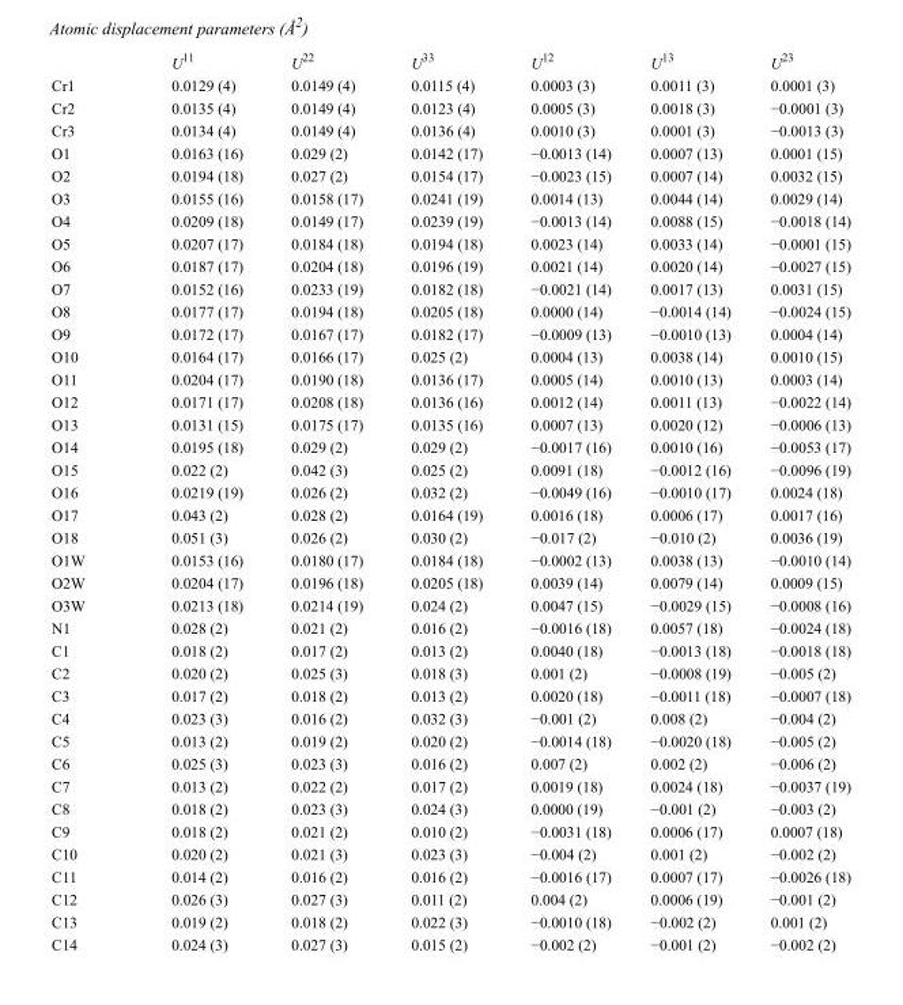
<table><thead><tr><td></td><td>U<sup>11</sup></td><td>U<sup>22</sup></td><td>U<sup>33</sup></td><td>U<sup>12</sup></td><td>U<sup>13</sup></td><td>U<sup>23</sup></td></tr></thead><tbody><tr><td>Cr1</td><td>0.0129 (4)</td><td>0.0149 (4)</td><td>0.0115 (4)</td><td>0.0003 (3)</td><td>0.0011 (3)</td><td>0.0001 (3)</td></tr><tr><td>Cr2</td><td>0.0135 (4)</td><td>0.0149 (4)</td><td>0.0123 (4)</td><td>0.0005 (3)</td><td>0.0018 (3)</td><td>−0.0001 (3)</td></tr><tr><td>Cr3</td><td>0.0134 (4)</td><td>0.0149 (4)</td><td>0.0136 (4)</td><td>0.0010 (3)</td><td>0.0001 (3)</td><td>−0.0013 (3)</td></tr><tr><td>O1</td><td>0.0163 (16)</td><td>0.029 (2)</td><td>0.0142 (17)</td><td>−0.0013 (14)</td><td>0.0007 (13)</td><td>0.0001 (15)</td></tr><tr><td>O2</td><td>0.0194 (18)</td><td>0.027 (2)</td><td>0.0154 (17)</td><td>−0.0023 (15)</td><td>0.0007 (14)</td><td>0.0032 (15)</td></tr><tr><td>O3</td><td>0.0155 (16)</td><td>0.0158 (17)</td><td>0.0241 (19)</td><td>0.0014 (13)</td><td>0.0044 (14)</td><td>0.0029 (14)</td></tr><tr><td>O4</td><td>0.0209 (18)</td><td>0.0149 (17)</td><td>0.0239 (19)</td><td>−0.0013 (14)</td><td>0.0088 (15)</td><td>−0.0018 (14)</td></tr><tr><td>O5</td><td>0.0207 (17)</td><td>0.0184 (18)</td><td>0.0194 (18)</td><td>0.0023 (14)</td><td>0.0033 (14)</td><td>−0.0001 (15)</td></tr><tr><td>O6</td><td>0.0187 (17)</td><td>0.0204 (18)</td><td>0.0196 (19)</td><td>0.0021 (14)</td><td>0.0020 (14)</td><td>−0.0027 (15)</td></tr><tr><td>O7</td><td>0.0152 (16)</td><td>0.0233 (19)</td><td>0.0182 (18)</td><td>−0.0021 (14)</td><td>0.0017 (13)</td><td>0.0031 (15)</td></tr><tr><td>O8</td><td>0.0177 (17)</td><td>0.0194 (18)</td><td>0.0205 (18)</td><td>0.0000 (14)</td><td>−0.0014 (14)</td><td>−0.0024 (15)</td></tr><tr><td>O9</td><td>0.0172 (17)</td><td>0.0167 (17)</td><td>0.0182 (17)</td><td>−0.0009 (13)</td><td>−0.0010 (13)</td><td>0.0004 (14)</td></tr><tr><td>O10</td><td>0.0164 (17)</td><td>0.0166 (17)</td><td>0.025 (2)</td><td>0.0004 (13)</td><td>0.0038 (14)</td><td>0.0010 (15)</td></tr><tr><td>O11</td><td>0.0204 (17)</td><td>0.0190 (18)</td><td>0.0136 (17)</td><td>0.0005 (14)</td><td>0.0010 (13)</td><td>0.0003 (14)</td></tr><tr><td>O12</td><td>0.0171 (17)</td><td>0.0208 (18)</td><td>0.0136 (16)</td><td>0.0012 (14)</td><td>0.0011 (13)</td><td>−0.0022 (14)</td></tr><tr><td>O13</td><td>0.0131 (15)</td><td>0.0175 (17)</td><td>0.0135 (16)</td><td>0.0007 (13)</td><td>0.0020 (12)</td><td>−0.0006 (13)</td></tr><tr><td>O14</td><td>0.0195 (18)</td><td>0.029 (2)</td><td>0.029 (2)</td><td>−0.0017 (16)</td><td>0.0010 (16)</td><td>−0.0053 (17)</td></tr><tr><td>O15</td><td>0.022 (2)</td><td>0.042 (3)</td><td>0.025 (2)</td><td>0.0091 (18)</td><td>−0.0012 (16)</td><td>−0.0096 (19)</td></tr><tr><td>O16</td><td>0.0219 (19)</td><td>0.026 (2)</td><td>0.032 (2)</td><td>−0.0049 (16)</td><td>−0.0010 (17)</td><td>0.0024 (18)</td></tr><tr><td>O17</td><td>0.043 (2)</td><td>0.028 (2)</td><td>0.0164 (19)</td><td>0.0016 (18)</td><td>0.0006 (17)</td><td>0.0017 (16)</td></tr><tr><td>O18</td><td>0.051 (3)</td><td>0.026 (2)</td><td>0.030 (2)</td><td>−0.017 (2)</td><td>−0.010 (2)</td><td>0.0036 (19)</td></tr><tr><td>O1W</td><td>0.0153 (16)</td><td>0.0180 (17)</td><td>0.0184 (18)</td><td>−0.0002 (13)</td><td>0.0038 (13)</td><td>−0.0010 (14)</td></tr><tr><td>O2W</td><td>0.0204 (17)</td><td>0.0196 (18)</td><td>0.0205 (18)</td><td>0.0039 (14)</td><td>0.0079 (14)</td><td>0.0009 (15)</td></tr><tr><td>O3W</td><td>0.0213 (18)</td><td>0.0214 (19)</td><td>0.024 (2)</td><td>0.0047 (15)</td><td>−0.0029 (15)</td><td>−0.0008 (16)</td></tr><tr><td>N1</td><td>0.028 (2)</td><td>0.021 (2)</td><td>0.016 (2)</td><td>−0.0016 (18)</td><td>0.0057 (18)</td><td>−0.0024 (18)</td></tr><tr><td>C1</td><td>0.018 (2)</td><td>0.017 (2)</td><td>0.013 (2)</td><td>0.0040 (18)</td><td>−0.0013 (18)</td><td>−0.0018 (18)</td></tr><tr><td>C2</td><td>0.020 (2)</td><td>0.025 (3)</td><td>0.018 (3)</td><td>0.001 (2)</td><td>−0.0008 (19)</td><td>−0.005 (2)</td></tr><tr><td>C3</td><td>0.017 (2)</td><td>0.018 (2)</td><td>0.013 (2)</td><td>0.0020 (18)</td><td>−0.0011 (18)</td><td>−0.0007 (18)</td></tr><tr><td>C4</td><td>0.023 (3)</td><td>0.016 (2)</td><td>0.032 (3)</td><td>−0.001 (2)</td><td>0.008 (2)</td><td>−0.004 (2)</td></tr><tr><td>C5</td><td>0.013 (2)</td><td>0.019 (2)</td><td>0.020 (2)</td><td>−0.0014 (18)</td><td>−0.0020 (18)</td><td>−0.005 (2)</td></tr><tr><td>C6</td><td>0.025 (3)</td><td>0.023 (3)</td><td>0.016 (2)</td><td>0.007 (2)</td><td>0.002 (2)</td><td>−0.006 (2)</td></tr><tr><td>C7</td><td>0.013 (2)</td><td>0.022 (2)</td><td>0.017 (2)</td><td>0.0019 (18)</td><td>0.0024 (18)</td><td>−0.0037 (19)</td></tr><tr><td>C8</td><td>0.018 (2)</td><td>0.023 (3)</td><td>0.024 (3)</td><td>0.0000 (19)</td><td>−0.001 (2)</td><td>−0.003 (2)</td></tr><tr><td>C9</td><td>0.018 (2)</td><td>0.021 (2)</td><td>0.010 (2)</td><td>−0.0031 (18)</td><td>0.0006 (17)</td><td>0.0007 (18)</td></tr><tr><td>C10</td><td>0.020 (2)</td><td>0.021 (3)</td><td>0.023 (3)</td><td>−0.004 (2)</td><td>0.001 (2)</td><td>−0.002 (2)</td></tr><tr><td>C11</td><td>0.014 (2)</td><td>0.016 (2)</td><td>0.016 (2)</td><td>−0.0016 (17)</td><td>0.0007 (17)</td><td>−0.0026 (18)</td></tr><tr><td>C12</td><td>0.026 (3)</td><td>0.027 (3)</td><td>0.011 (2)</td><td>0.004 (2)</td><td>0.0006 (19)</td><td>−0.001 (2)</td></tr><tr><td>C13</td><td>0.019 (2)</td><td>0.018 (2)</td><td>0.022 (3)</td><td>−0.0010 (18)</td><td>−0.002 (2)</td><td>0.001 (2)</td></tr><tr><td>C14</td><td>0.024 (3)</td><td>0.027 (3)</td><td>0.015 (2)</td><td>−0.002 (2)</td><td>−0.001 (2)</td><td>−0.002 (2)</td></tr></tbody></table>